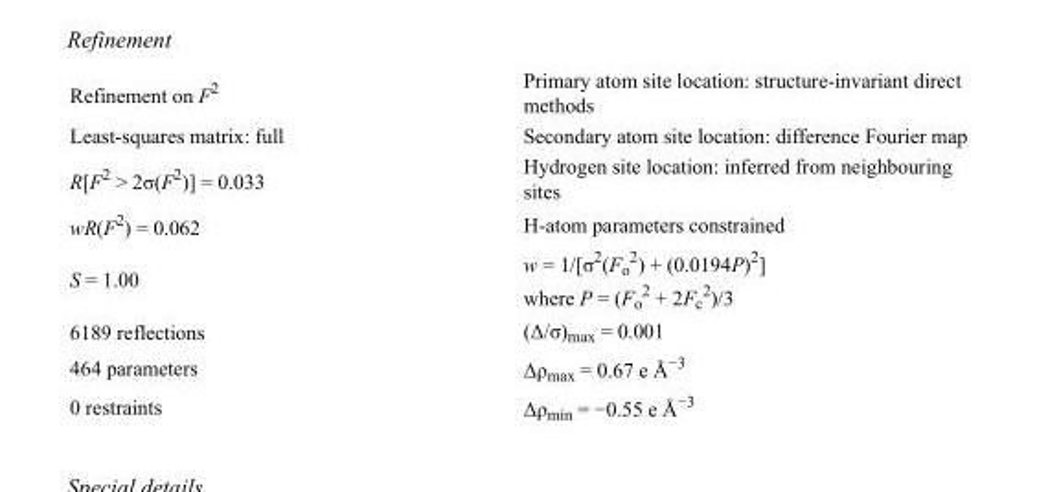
<table><tbody><tr><td>Refinement on F<sup>2</sup></td><td>Primary atom site location: structure-invariant direct methods</td></tr><tr><td>Least-squares matrix: full</td><td>Secondary atom site location: difference Fourier map</td></tr><tr><td>R[F<sup>2</sup> &gt; 2σ(F<sup>2</sup>)] = 0.033</td><td>Hydrogen site location: inferred from neighbouring sites</td></tr><tr><td>wR(F<sup>2</sup>) = 0.062</td><td>H-atom parameters constrained</td></tr><tr><td>S = 1.00</td><td>w = 1/[σ<sup>2</sup>(F<sub>o</sub> <sup>2</sup>) + (0.0194P)<sup>2</sup>] where P = (F<sub>o</sub> <sup>2</sup> + 2F<sub>c</sub> <sup>2</sup>)/3</td></tr><tr><td>6189 reflections</td><td>(Δ/σ)<sub>max</sub> = 0.001</td></tr><tr><td>464 parameters</td><td>Δρ<sub>max</sub> = 0.67 e Å<sup>−3</sup></td></tr><tr><td>0 restraints</td><td>Δρ<sub>min</sub> = −0.55 e Å<sup>−3</sup></td></tr></tbody></table>